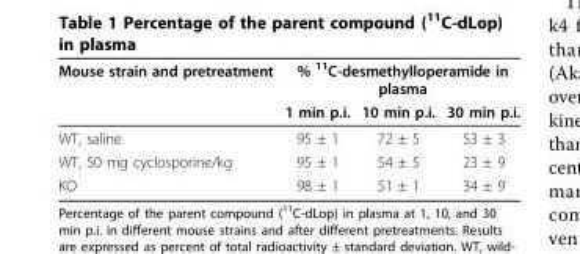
<table><thead><tr><td rowspan="2">Mouse strain and pretreatment</td><td colspan="3">% <sup>11</sup>C-desmethylloperamide in plasma</td></tr><tr><td>1 min p.i.</td><td>10 min p.i.</td><td>30 min p.i.</td></tr></thead><tbody><tr><td>WT, saline</td><td>95 ± 1</td><td>72 ± 5</td><td>53 ± 3</td></tr><tr><td>WT, 50 mg cyclosporine/kg</td><td>95 ± 1</td><td>54 ± 5</td><td>23 ± 9</td></tr><tr><td>KO</td><td>98 ± 1</td><td>51 ± 1</td><td>34 ± 9</td></tr></tbody></table>